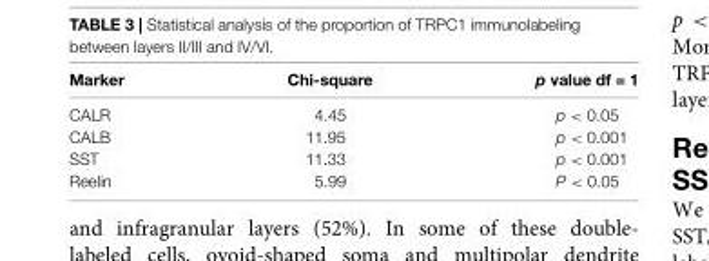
<table><thead><tr><td>Marker</td><td>Chi-square</td><td>p value df = 1</td></tr></thead><tbody><tr><td>CALR</td><td>4.45</td><td>p &lt; 0.05</td></tr><tr><td>CALB</td><td>11.95</td><td>p &lt; 0.001</td></tr><tr><td>SST</td><td>11.33</td><td>p &lt; 0.001</td></tr><tr><td>Reelin</td><td>5.99</td><td>P &lt; 0.05</td></tr></tbody></table>